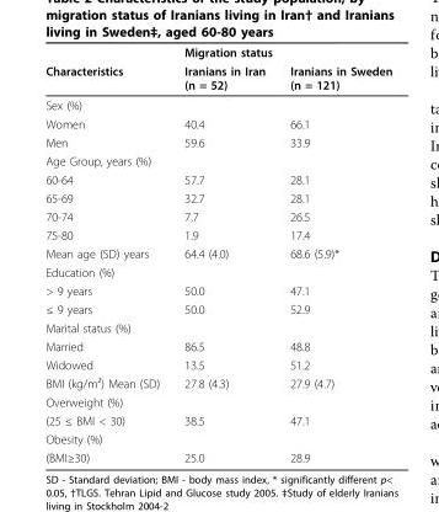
<table><thead><tr><td rowspan="2">Characteristics</td><td colspan="2">Migration status</td></tr><tr><td>Iranians in Iran (n = 52)</td><td>Iranians in Sweden (n = 121)</td></tr></thead><tbody><tr><td colspan="3">Sex (%)</td></tr><tr><td>Women</td><td>40.4</td><td>66.1</td></tr><tr><td>Men</td><td>59.6</td><td>33.9</td></tr><tr><td colspan="3">Age Group, years (%)</td></tr><tr><td>60-64</td><td>57.7</td><td>28.1</td></tr><tr><td>65-69</td><td>32.7</td><td>28.1</td></tr><tr><td>70-74</td><td>7.7</td><td>26.5</td></tr><tr><td>75-80</td><td>1.9</td><td>17.4</td></tr><tr><td>Mean age (SD) years</td><td>64.4 (4.0)</td><td>68.6 (5.9)*</td></tr><tr><td colspan="3">Education (%)</td></tr><tr><td>&gt; 9 years</td><td>50.0</td><td>47.1</td></tr><tr><td>≤ 9 years</td><td>50.0</td><td>52.9</td></tr><tr><td colspan="3">Marital status (%)</td></tr><tr><td>Married</td><td>86.5</td><td>48.8</td></tr><tr><td>Widowed</td><td>13.5</td><td>51.2</td></tr><tr><td>BMI (kg/m²) Mean (SD)</td><td>27.8 (4.3)</td><td>27.9 (4.7)</td></tr><tr><td colspan="3">Overweight (%)</td></tr><tr><td>(25 ≤ BMI &lt; 30)</td><td>38.5</td><td>47.1</td></tr><tr><td colspan="3">Obesity (%)</td></tr><tr><td>(BMI≥30)</td><td>25.0</td><td>28.9</td></tr></tbody></table>